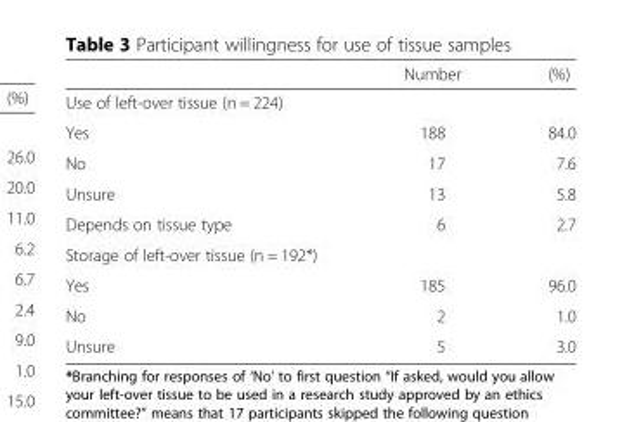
<table><thead><tr><td></td><td>Number</td><td>(%)</td></tr></thead><tbody><tr><td colspan="3">Use of left-over tissue (n = 224)</td></tr><tr><td>Yes</td><td>188</td><td>84.0</td></tr><tr><td>No</td><td>17</td><td>7.6</td></tr><tr><td>Unsure</td><td>13</td><td>5.8</td></tr><tr><td>Depends on tissue type</td><td>6</td><td>2.7</td></tr><tr><td colspan="3">Storage of left-over tissue (n = 192*)</td></tr><tr><td>Yes</td><td>185</td><td>96.0</td></tr><tr><td>No</td><td>2</td><td>1.0</td></tr><tr><td>Unsure</td><td>5</td><td>3.0</td></tr></tbody></table>